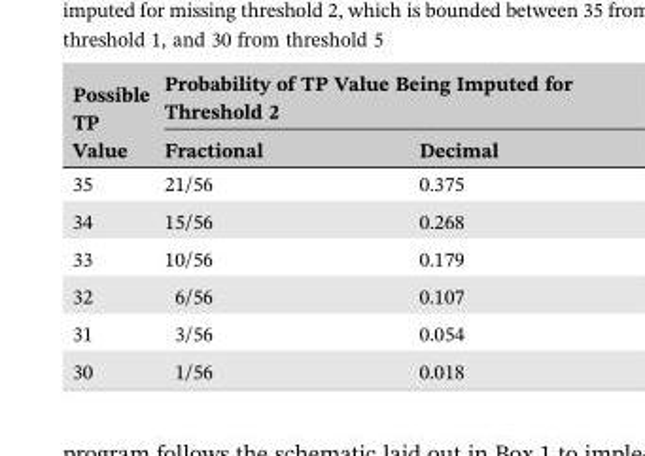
<table><thead><tr><td rowspan="2">Possible TP Value</td><td colspan="2">Probability of TP Value Being Imputed for Threshold 2</td></tr><tr><td>Fractional</td><td>Decimal</td></tr></thead><tbody><tr><td>35</td><td>21/56</td><td>0.375</td></tr><tr><td>34</td><td>15/56</td><td>0.268</td></tr><tr><td>33</td><td>10/56</td><td>0.179</td></tr><tr><td>32</td><td>6/56</td><td>0.107</td></tr><tr><td>31</td><td>3/56</td><td>0.054</td></tr><tr><td>30</td><td>1/56</td><td>0.018</td></tr></tbody></table>